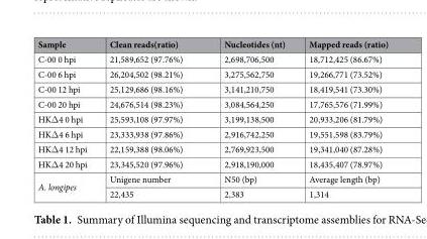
<table><thead><tr><td>Sample</td><td>Clean reads(ratio)</td><td>Nucleotides (nt)</td><td>Mapped reads (ratio)</td></tr></thead><tbody><tr><td>C-00 0 hpi</td><td>21,589,652 (97.76%)</td><td>2,698,706,500</td><td>18,712,425 (86.67%)</td></tr><tr><td>C-00 6 hpi</td><td>26,204,502 (98.21%)</td><td>3,275,562,750</td><td>19,266,771 (73.52%)</td></tr><tr><td>C-00 12 hpi</td><td>25,129,686 (98.16%)</td><td>3,141,210,750</td><td>18,419,541 (73.30%)</td></tr><tr><td>C-00 20 hpi</td><td>24,676,514 (98.23%)</td><td>3,084,564,250</td><td>17,765,576 (71.99%)</td></tr><tr><td>HKΔ4 0 hpi</td><td>25,593,108 (97.97%)</td><td>3,199,138,500</td><td>20,933,206 (81.79%)</td></tr><tr><td>HKΔ4 6 hpi</td><td>23,333,938 (97.86%)</td><td>2,916,742,250</td><td>19,551,598 (83.79%)</td></tr><tr><td>HKΔ4 12 hpi</td><td>22,159,388 (98.06%)</td><td>2,769,923,500</td><td>19,341,040 (87.28%)</td></tr><tr><td>HKΔ4 20 hpi</td><td>23,345,520 (97.96%)</td><td>2,918,190,000</td><td>18,435,407 (78.97%)</td></tr><tr><td rowspan="2">A. longipes</td><td>Unigene number</td><td>N50 (bp)</td><td>Average length (bp)</td></tr><tr><td>22,435</td><td>2,383</td><td>1,314</td></tr></tbody></table>